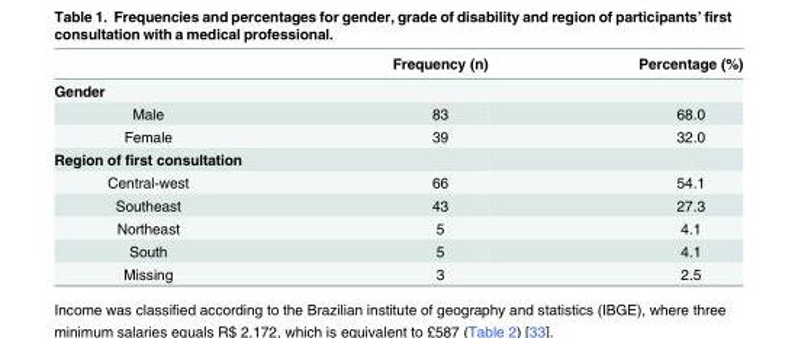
<table><thead><tr><td></td><td>Frequency (n)</td><td>Percentage (%)</td></tr></thead><tbody><tr><td colspan="3">Gender</td></tr><tr><td>Male</td><td>83</td><td>68.0</td></tr><tr><td>Female</td><td>39</td><td>32.0</td></tr><tr><td colspan="3">Region of first consultation</td></tr><tr><td>Central-west</td><td>66</td><td>54.1</td></tr><tr><td>Southeast</td><td>43</td><td>27.3</td></tr><tr><td>Northeast</td><td>5</td><td>4.1</td></tr><tr><td>South</td><td>5</td><td>4.1</td></tr><tr><td>Missing</td><td>3</td><td>2.5</td></tr></tbody></table>